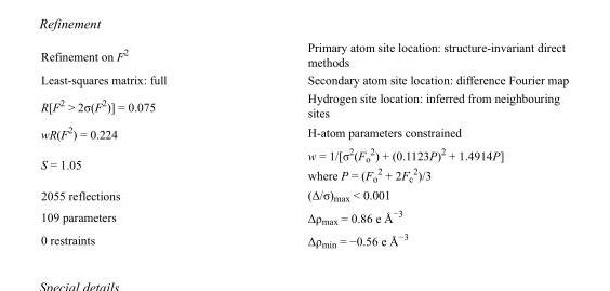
<table><tbody><tr><td>Refinement on F<sup>2</sup></td><td>Primary atom site location: structure-invariant direct methods</td></tr><tr><td>Least-squares matrix: full</td><td>Secondary atom site location: difference Fourier map</td></tr><tr><td>R[F<sup>2</sup> &gt; 2σ(F<sup>2</sup>)] = 0.075</td><td>Hydrogen site location: inferred from neighbouring sites</td></tr><tr><td>wR(F<sup>2</sup>) = 0.224</td><td>H-atom parameters constrained</td></tr><tr><td>S = 1.05</td><td>w = 1/[σ<sup>2</sup>(F<sub>o</sub> <sup>2</sup>) + (0.1123P)<sup>2</sup> + 1.4914P] where P = (F<sub>o</sub> <sup>2</sup> + 2F<sub>c</sub> <sup>2</sup>)/3</td></tr><tr><td>2055 reflections</td><td>(Δ/σ)<sub>max</sub> &lt; 0.001</td></tr><tr><td>109 parameters</td><td>Δρ<sub>max</sub> = 0.86 e Å<sup>−3</sup></td></tr><tr><td>0 restraints</td><td>Δρ<sub>min</sub> = −0.56 e Å<sup>−3</sup></td></tr></tbody></table>